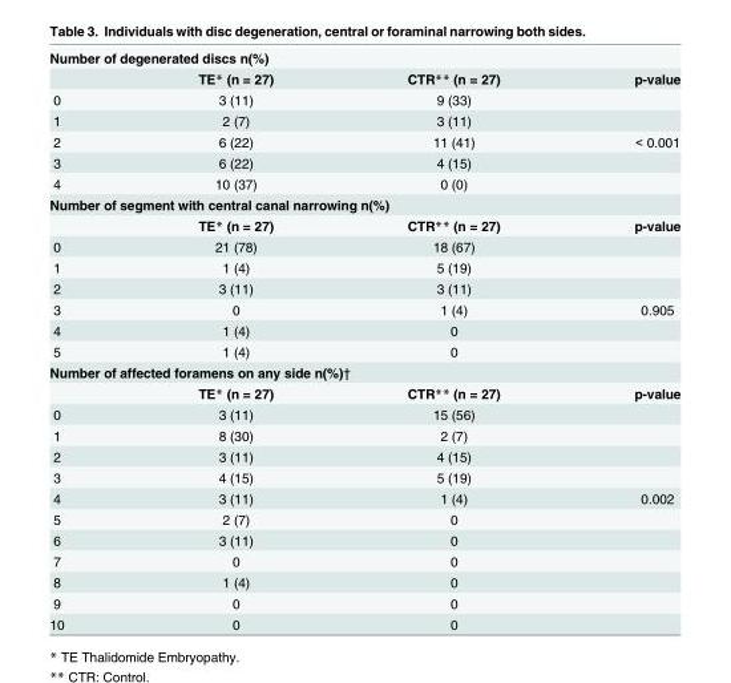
<table><tbody><tr><td colspan="4">Number of degenerated discs n(%)</td></tr><tr><td></td><td>TE* (n = 27)</td><td>CTR** (n = 27)</td><td>p-value</td></tr><tr><td>0</td><td>3 (11)</td><td>9 (33)</td><td></td></tr><tr><td>1</td><td>2 (7)</td><td>3 (11)</td><td></td></tr><tr><td>2</td><td>6 (22)</td><td>11 (41)</td><td>&lt; 0.001</td></tr><tr><td>3</td><td>6 (22)</td><td>4 (15)</td><td></td></tr><tr><td>4</td><td>10 (37)</td><td>0 (0)</td><td></td></tr><tr><td colspan="4">Number of segment with central canal narrowing n(%)</td></tr><tr><td></td><td>TE* (n = 27)</td><td>CTR** (n = 27)</td><td>p-value</td></tr><tr><td>0</td><td>21 (78)</td><td>18 (67)</td><td></td></tr><tr><td>1</td><td>1 (4)</td><td>5 (19)</td><td></td></tr><tr><td>2</td><td>3 (11)</td><td>3 (11)</td><td></td></tr><tr><td>3</td><td>0</td><td>1 (4)</td><td>0.905</td></tr><tr><td>4</td><td>1 (4)</td><td>0</td><td></td></tr><tr><td>5</td><td>1 (4)</td><td>0</td><td></td></tr><tr><td colspan="4">Number of affected foramens on any side n(%)†</td></tr><tr><td></td><td>TE* (n = 27)</td><td>CTR** (n = 27)</td><td>p-value</td></tr><tr><td>0</td><td>3 (11)</td><td>15 (56)</td><td></td></tr><tr><td>1</td><td>8 (30)</td><td>2 (7)</td><td></td></tr><tr><td>2</td><td>3 (11)</td><td>4 (15)</td><td></td></tr><tr><td>3</td><td>4 (15)</td><td>5 (19)</td><td></td></tr><tr><td>4</td><td>3 (11)</td><td>1 (4)</td><td>0.002</td></tr><tr><td>5</td><td>2 (7)</td><td>0</td><td></td></tr><tr><td>6</td><td>3 (11)</td><td>0</td><td></td></tr><tr><td>7</td><td>0</td><td>0</td><td></td></tr><tr><td>8</td><td>1 (4)</td><td>0</td><td></td></tr><tr><td>9</td><td>0</td><td>0</td><td></td></tr><tr><td>10</td><td>0</td><td>0</td><td></td></tr></tbody></table>